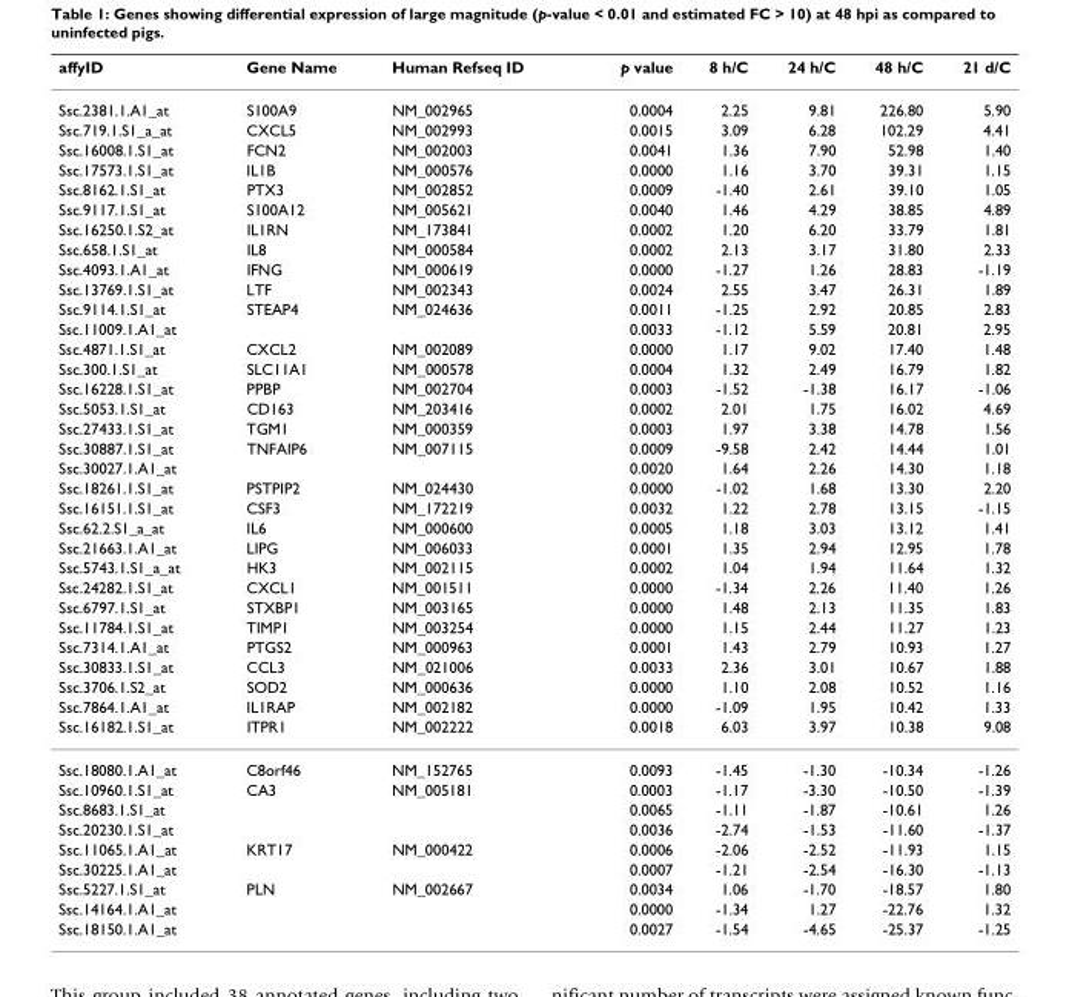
<table><thead><tr><td>affyID</td><td>Gene Name</td><td>Human Refseq ID</td><td>p value</td><td>8 h/C</td><td>24 h/C</td><td>48 h/C</td><td>21 d/C</td></tr></thead><tbody><tr><td>Ssc.2381.1.A1_at</td><td>S100A9</td><td>NM_002965</td><td>0.0004</td><td>2.25</td><td>9.81</td><td>226.80</td><td>5.90</td></tr><tr><td>Ssc.719.1.S1_a_at</td><td>CXCL5</td><td>NM_002993</td><td>0.0015</td><td>3.09</td><td>6.28</td><td>102.29</td><td>4.41</td></tr><tr><td>Ssc.16008.1.S1_at</td><td>FCN2</td><td>NM_002003</td><td>0.0041</td><td>1.36</td><td>7.90</td><td>52.98</td><td>1.40</td></tr><tr><td>Ssc.17573.1.S1_at</td><td>IL1B</td><td>NM_000576</td><td>0.0000</td><td>1.16</td><td>3.70</td><td>39.31</td><td>1.15</td></tr><tr><td>Ssc.8162.1.S1_at</td><td>PTX3</td><td>NM_002852</td><td>0.0009</td><td>-1.40</td><td>2.61</td><td>39.10</td><td>1.05</td></tr><tr><td>Ssc.9117.1.S1_at</td><td>S100A12</td><td>NM_005621</td><td>0.0040</td><td>1.46</td><td>4.29</td><td>38.85</td><td>4.89</td></tr><tr><td>Ssc.16250.1.S2_at</td><td>IL1RN</td><td>NM_173841</td><td>0.0002</td><td>1.20</td><td>6.20</td><td>33.79</td><td>1.81</td></tr><tr><td>Ssc.658.1.S1_at</td><td>IL8</td><td>NM_000584</td><td>0.0002</td><td>2.13</td><td>3.17</td><td>31.80</td><td>2.33</td></tr><tr><td>Ssc.4093.1.A1_at</td><td>IFNG</td><td>NM_000619</td><td>0.0000</td><td>-1.27</td><td>1.26</td><td>28.83</td><td>-1.19</td></tr><tr><td>Ssc.13769.1.S1_at</td><td>LTF</td><td>NM_002343</td><td>0.0024</td><td>2.55</td><td>3.47</td><td>26.31</td><td>1.89</td></tr><tr><td>Ssc.9114.1.S1_at</td><td>STEAP4</td><td>NM_024636</td><td>0.0011</td><td>-1.25</td><td>2.92</td><td>20.85</td><td>2.83</td></tr><tr><td>Ssc.11009.1.A1_at</td><td></td><td></td><td>0.0033</td><td>-1.12</td><td>5.59</td><td>20.81</td><td>2.95</td></tr><tr><td>Ssc.4871.1.S1_at</td><td>CXCL2</td><td>NM_002089</td><td>0.0000</td><td>1.17</td><td>9.02</td><td>17.40</td><td>1.48</td></tr><tr><td>Ssc.300.1.S1_at</td><td>SLC11A1</td><td>NM_000578</td><td>0.0004</td><td>1.32</td><td>2.49</td><td>16.79</td><td>1.82</td></tr><tr><td>Ssc.16228.1.S1_at</td><td>PPBP</td><td>NM_002704</td><td>0.0003</td><td>-1.52</td><td>-1.38</td><td>16.17</td><td>-1.06</td></tr><tr><td>Ssc.5053.1.S1_at</td><td>CD163</td><td>NM_203416</td><td>0.0002</td><td>2.01</td><td>1.75</td><td>16.02</td><td>4.69</td></tr><tr><td>Ssc.27433.1.S1_at</td><td>TGM1</td><td>NM_000359</td><td>0.0003</td><td>1.97</td><td>3.38</td><td>14.78</td><td>1.56</td></tr><tr><td>Ssc.30887.1.S1_at</td><td>TNFAIP6</td><td>NM_007115</td><td>0.0009</td><td>-9.58</td><td>2.42</td><td>14.44</td><td>1.01</td></tr><tr><td>Ssc.30027.1.A1_at</td><td></td><td></td><td>0.0020</td><td>1.64</td><td>2.26</td><td>14.30</td><td>1.18</td></tr><tr><td>Ssc.18261.1.S1_at</td><td>PSTPIP2</td><td>NM_024430</td><td>0.0000</td><td>-1.02</td><td>1.68</td><td>13.30</td><td>2.20</td></tr><tr><td>Ssc.16151.1.S1_at</td><td>CSF3</td><td>NM_172219</td><td>0.0032</td><td>1.22</td><td>2.78</td><td>13.15</td><td>-1.15</td></tr><tr><td>Ssc.62.2.S1_a_at</td><td>IL6</td><td>NM_000600</td><td>0.0005</td><td>1.18</td><td>3.03</td><td>13.12</td><td>1.41</td></tr><tr><td>Ssc.21663.1.A1_at</td><td>LIPG</td><td>NM_006033</td><td>0.0001</td><td>1.35</td><td>2.94</td><td>12.95</td><td>1.78</td></tr><tr><td>Ssc.5743.1.S1_a_at</td><td>HK3</td><td>NM_002115</td><td>0.0002</td><td>1.04</td><td>1.94</td><td>11.64</td><td>1.32</td></tr><tr><td>Ssc.24282.1.S1_at</td><td>CXCL1</td><td>NM_001511</td><td>0.0000</td><td>-1.34</td><td>2.26</td><td>11.40</td><td>1.26</td></tr><tr><td>Ssc.6797.1.S1_at</td><td>STXBP1</td><td>NM_003165</td><td>0.0000</td><td>1.48</td><td>2.13</td><td>11.35</td><td>1.83</td></tr><tr><td>Ssc.11784.1.S1_at</td><td>TIMP1</td><td>NM_003254</td><td>0.0000</td><td>1.15</td><td>2.44</td><td>11.27</td><td>1.23</td></tr><tr><td>Ssc.7314.1.A1_at</td><td>PTGS2</td><td>NM_000963</td><td>0.0001</td><td>1.43</td><td>2.79</td><td>10.93</td><td>1.27</td></tr><tr><td>Ssc.30833.1.S1_at</td><td>CCL3</td><td>NM_021006</td><td>0.0033</td><td>2.36</td><td>3.01</td><td>10.67</td><td>1.88</td></tr><tr><td>Ssc.3706.1.S2_at</td><td>SOD2</td><td>NM_000636</td><td>0.0000</td><td>1.10</td><td>2.08</td><td>10.52</td><td>1.16</td></tr><tr><td>Ssc.7864.1.A1_at</td><td>IL1RAP</td><td>NM_002182</td><td>0.0000</td><td>-1.09</td><td>1.95</td><td>10.42</td><td>1.33</td></tr><tr><td>Ssc.16182.1.S1_at</td><td>ITPR1</td><td>NM_002222</td><td>0.0018</td><td>6.03</td><td>3.97</td><td>10.38</td><td>9.08</td></tr><tr><td>Ssc.18080.1.A1_at</td><td>C8orf46</td><td>NM_152765</td><td>0.0093</td><td>-1.45</td><td>-1.30</td><td>-10.34</td><td>-1.26</td></tr><tr><td>Ssc.10960.1.S1_at</td><td>CA3</td><td>NM_005181</td><td>0.0003</td><td>-1.17</td><td>-3.30</td><td>-10.50</td><td>-1.39</td></tr><tr><td>Ssc.8683.1.S1_at</td><td></td><td></td><td>0.0065</td><td>-1.11</td><td>-1.87</td><td>-10.61</td><td>1.26</td></tr><tr><td>Ssc.20230.1.S1_at</td><td></td><td></td><td>0.0036</td><td>-2.74</td><td>-1.53</td><td>-11.60</td><td>-1.37</td></tr><tr><td>Ssc.11065.1.A1_at</td><td>KRT17</td><td>NM_000422</td><td>0.0006</td><td>-2.06</td><td>-2.52</td><td>-11.93</td><td>1.15</td></tr><tr><td>Ssc.30225.1.A1_at</td><td></td><td></td><td>0.0007</td><td>-1.21</td><td>-2.54</td><td>-16.30</td><td>-1.13</td></tr><tr><td>Ssc.5227.1.S1_at</td><td>PLN</td><td>NM_002667</td><td>0.0034</td><td>1.06</td><td>-1.70</td><td>-18.57</td><td>1.80</td></tr><tr><td>Ssc.14164.1.A1_at</td><td></td><td></td><td>0.0000</td><td>-1.34</td><td>1.27</td><td>-22.76</td><td>1.32</td></tr><tr><td>Ssc.18150.1.A1_at</td><td></td><td></td><td>0.0027</td><td>-1.54</td><td>-4.65</td><td>-25.37</td><td>-1.25</td></tr></tbody></table>